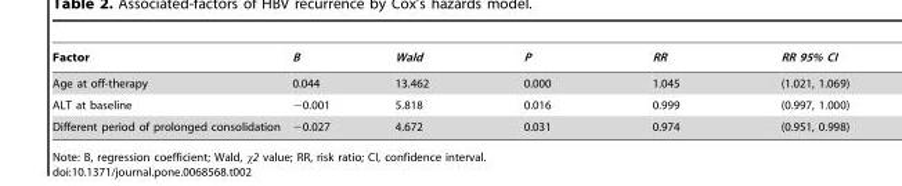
<table><thead><tr><td>Factor</td><td>B</td><td>Wald</td><td>P</td><td>RR</td><td>RR 95% CI</td></tr></thead><tbody><tr><td>Age at off-therapy</td><td>0.044</td><td>13.462</td><td>0.000</td><td>1.045</td><td>(1.021, 1.069)</td></tr><tr><td>ALT at baseline</td><td>−0.001</td><td>5.818</td><td>0.016</td><td>0.999</td><td>(0.997, 1.000)</td></tr><tr><td>Different period of prolonged consolidation</td><td>−0.027</td><td>4.672</td><td>0.031</td><td>0.974</td><td>(0.951, 0.998)</td></tr></tbody></table>